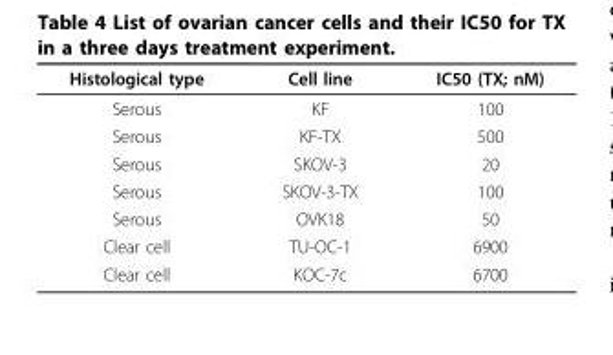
<table><thead><tr><td>Histological type</td><td>Cell line</td><td>IC50 (TX; nM)</td></tr></thead><tbody><tr><td>Serous</td><td>KF</td><td>100</td></tr><tr><td>Serous</td><td>KF-TX</td><td>500</td></tr><tr><td>Serous</td><td>SKOV-3</td><td>20</td></tr><tr><td>Serous</td><td>SKOV-3-TX</td><td>100</td></tr><tr><td>Serous</td><td>OVK18</td><td>50</td></tr><tr><td>Clear cell</td><td>TU-OC-1</td><td>6900</td></tr><tr><td>Clear cell</td><td>KOC-7c</td><td>6700</td></tr></tbody></table>